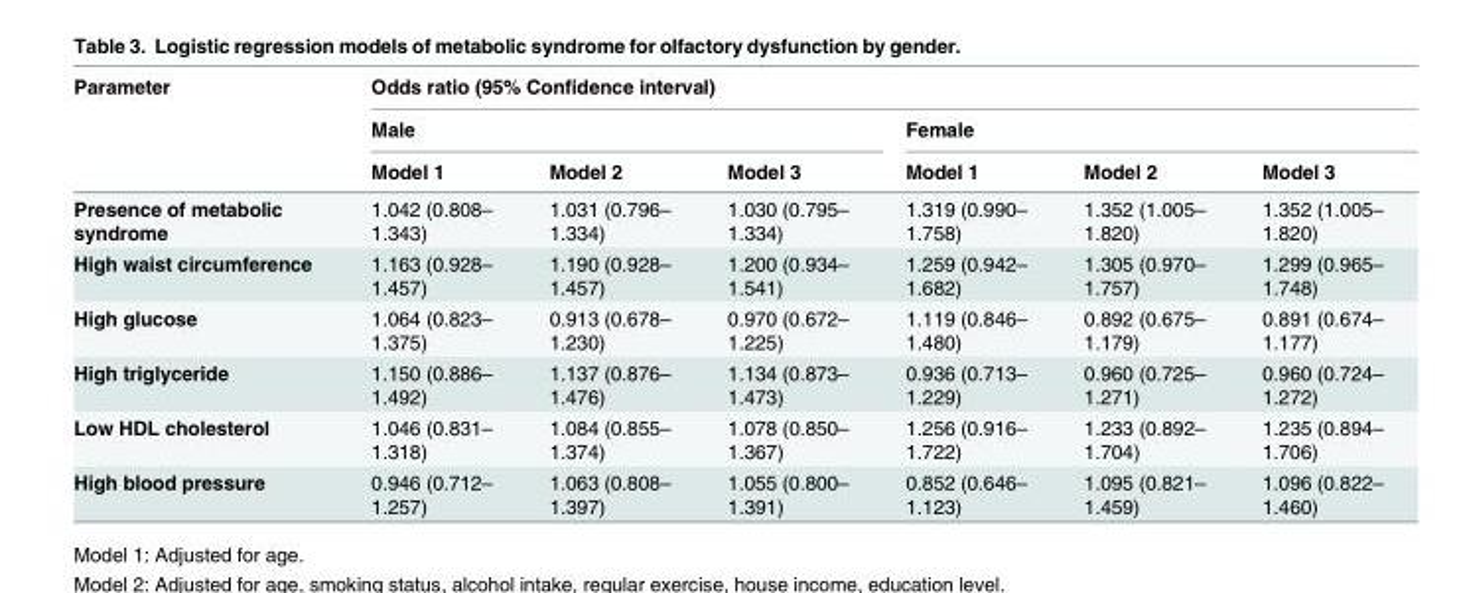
<table><thead><tr><td rowspan="3">Parameter</td><td colspan="6">Odds ratio (95% Confidence interval)</td></tr><tr><td colspan="3">Male</td><td colspan="3">Female</td></tr><tr><td>Model 1</td><td>Model 2</td><td>Model 3</td><td>Model 1</td><td>Model 2</td><td>Model 3</td></tr></thead><tbody><tr><td>Presence of metabolic syndrome</td><td>1.042 (0.808– 1.343)</td><td>1.031 (0.796– 1.334)</td><td>1.030 (0.795– 1.334)</td><td>1.319 (0.990– 1.758)</td><td>1.352 (1.005– 1.820)</td><td>1.352 (1.005– 1.820)</td></tr><tr><td>High waist circumference</td><td>1.163 (0.928– 1.457)</td><td>1.190 (0.928– 1.457)</td><td>1.200 (0.934– 1.541)</td><td>1.259 (0.942– 1.682)</td><td>1.305 (0.970– 1.757)</td><td>1.299 (0.965– 1.748)</td></tr><tr><td>High glucose</td><td>1.064 (0.823– 1.375)</td><td>0.913 (0.678– 1.230)</td><td>0.970 (0.672– 1.225)</td><td>1.119 (0.846– 1.480)</td><td>0.892 (0.675– 1.179)</td><td>0.891 (0.674– 1.177)</td></tr><tr><td>High triglyceride</td><td>1.150 (0.886– 1.492)</td><td>1.137 (0.876– 1.476)</td><td>1.134 (0.873– 1.473)</td><td>0.936 (0.713– 1.229)</td><td>0.960 (0.725– 1.271)</td><td>0.960 (0.724– 1.272)</td></tr><tr><td>Low HDL cholesterol</td><td>1.046 (0.831– 1.318)</td><td>1.084 (0.855– 1.374)</td><td>1.078 (0.850– 1.367)</td><td>1.256 (0.916– 1.722)</td><td>1.233 (0.892– 1.704)</td><td>1.235 (0.894– 1.706)</td></tr><tr><td>High blood pressure</td><td>0.946 (0.712– 1.257)</td><td>1.063 (0.808– 1.397)</td><td>1.055 (0.800– 1.391)</td><td>0.852 (0.646– 1.123)</td><td>1.095 (0.821– 1.459)</td><td>1.096 (0.822– 1.460)</td></tr></tbody></table>